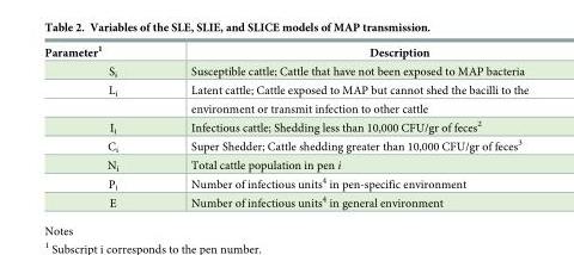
<table><thead><tr><td>Parameter<sup>1</sup></td><td>Description</td></tr></thead><tbody><tr><td>S<sub>i</sub></td><td>Susceptible cattle; Cattle that have not been exposed to MAP bacteria</td></tr><tr><td rowspan="2">L<sub>i</sub></td><td>Latent cattle; Cattle exposed to MAP but cannot shed the bacilli to the</td></tr><tr><td>environment or transmit infection to other cattle</td></tr><tr><td>I<sub>i</sub></td><td>Infectious cattle; Shedding less than 10,000 CFU/gr of feces<sup>2</sup></td></tr><tr><td>C<sub>i</sub></td><td>Super Shedder; Cattle shedding greater than 10,000 CFU/gr of feces<sup>3</sup></td></tr><tr><td>N<sub>i</sub></td><td>Total cattle population in pen i</td></tr><tr><td>P<sub>i</sub></td><td>Number of infectious units<sup>4</sup> in pen-specific environment</td></tr><tr><td>E</td><td>Number of infectious units<sup>4</sup> in general environment</td></tr></tbody></table>